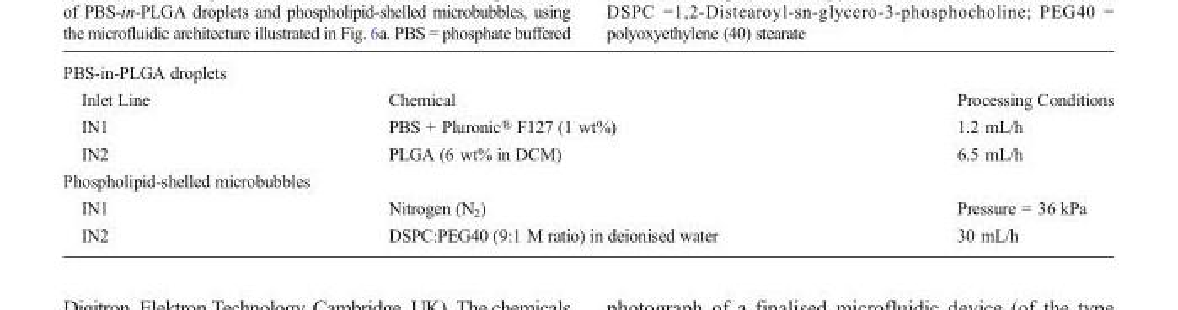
<table><tbody><tr><td colspan="3">PBS-in-PLGA droplets</td></tr><tr><td>Inlet Line</td><td>Chemical</td><td>Processing Conditions</td></tr><tr><td>IN1</td><td>PBS + Pluronic® F127 (1 wt%)</td><td>1.2 mL/h</td></tr><tr><td>IN2</td><td>PLGA (6 wt% in DCM)</td><td>6.5 mL/h</td></tr><tr><td colspan="3">Phospholipid-shelled microbubbles</td></tr><tr><td>IN1</td><td>Nitrogen (N<sub>2</sub>)</td><td>Pressure = 36 kPa</td></tr><tr><td>IN2</td><td>DSPC:PEG40 (9:1 M ratio) in deionised water</td><td>30 mL/h</td></tr></tbody></table>